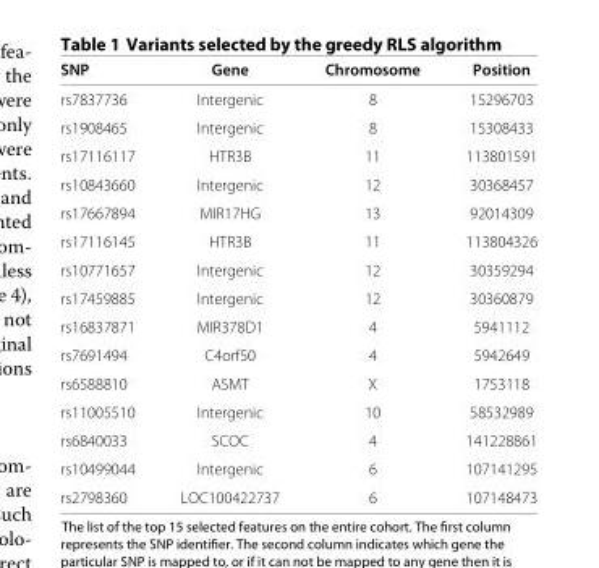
<table><thead><tr><td>SNP</td><td>Gene</td><td>Chromosome</td><td>Position</td></tr></thead><tbody><tr><td>rs7837736</td><td>Intergenic</td><td>8</td><td>15296703</td></tr><tr><td>rs1908465</td><td>Intergenic</td><td>8</td><td>15308433</td></tr><tr><td>rs17116117</td><td>HTR3B</td><td>11</td><td>113801591</td></tr><tr><td>rs10843660</td><td>Intergenic</td><td>12</td><td>30368457</td></tr><tr><td>rs17667894</td><td>MIR17HG</td><td>13</td><td>92014309</td></tr><tr><td>rs17116145</td><td>HTR3B</td><td>11</td><td>113804326</td></tr><tr><td>rs10771657</td><td>Intergenic</td><td>12</td><td>30359294</td></tr><tr><td>rs17459885</td><td>Intergenic</td><td>12</td><td>30360879</td></tr><tr><td>rs16837871</td><td>MIR378D1</td><td>4</td><td>5941112</td></tr><tr><td>rs7691494</td><td>C4orf50</td><td>4</td><td>5942649</td></tr><tr><td>rs6588810</td><td>ASMT</td><td>X</td><td>1753118</td></tr><tr><td>rs11005510</td><td>Intergenic</td><td>10</td><td>58532989</td></tr><tr><td>rs6840033</td><td>SCOC</td><td>4</td><td>141228861</td></tr><tr><td>rs10499044</td><td>Intergenic</td><td>6</td><td>107141295</td></tr><tr><td>rs2798360</td><td>LOC100422737</td><td>6</td><td>107148473</td></tr></tbody></table>